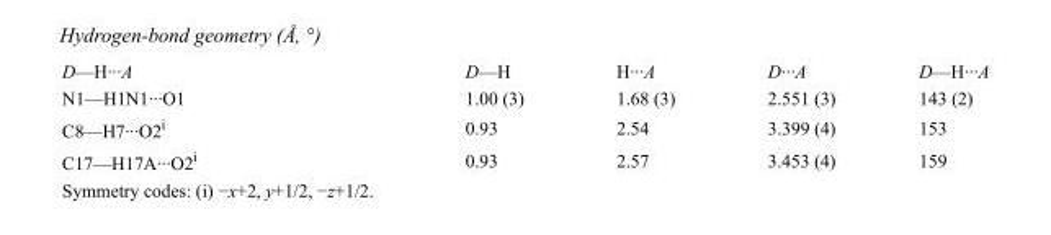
<table><tbody><tr><td>D—H···A</td><td>D—H</td><td>H···A</td><td>D···A</td><td>D—H···A</td></tr><tr><td>N1—H1N1···O1</td><td>1.00 (3)</td><td>1.68 (3)</td><td>2.551 (3)</td><td>143 (2)</td></tr><tr><td>C8—H7···O2<sup>i</sup></td><td>0.93</td><td>2.54</td><td>3.399 (4)</td><td>153</td></tr><tr><td>C17—H17A···O2<sup>i</sup></td><td>0.93</td><td>2.57</td><td>3.453 (4)</td><td>159</td></tr></tbody></table>